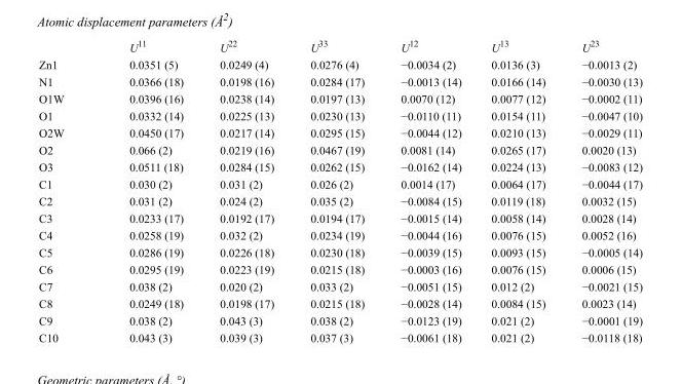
<table><thead><tr><td></td><td>U<sup>11</sup></td><td>U<sup>22</sup></td><td>U<sup>33</sup></td><td>U<sup>12</sup></td><td>U<sup>13</sup></td><td>U<sup>23</sup></td></tr></thead><tbody><tr><td>Zn1</td><td>0.0351 (5)</td><td>0.0249 (4)</td><td>0.0276 (4)</td><td>−0.0034 (2)</td><td>0.0136 (3)</td><td>−0.0013 (2)</td></tr><tr><td>N1</td><td>0.0366 (18)</td><td>0.0198 (16)</td><td>0.0284 (17)</td><td>−0.0013 (14)</td><td>0.0166 (14)</td><td>−0.0030 (13)</td></tr><tr><td>O1W</td><td>0.0396 (16)</td><td>0.0238 (14)</td><td>0.0197 (13)</td><td>0.0070 (12)</td><td>0.0077 (12)</td><td>−0.0002 (11)</td></tr><tr><td>O1</td><td>0.0332 (14)</td><td>0.0225 (13)</td><td>0.0230 (13)</td><td>−0.0110 (11)</td><td>0.0154 (11)</td><td>−0.0047 (10)</td></tr><tr><td>O2W</td><td>0.0450 (17)</td><td>0.0217 (14)</td><td>0.0295 (15)</td><td>−0.0044 (12)</td><td>0.0210 (13)</td><td>−0.0029 (11)</td></tr><tr><td>O2</td><td>0.066 (2)</td><td>0.0219 (16)</td><td>0.0467 (19)</td><td>0.0081 (14)</td><td>0.0265 (17)</td><td>0.0020 (13)</td></tr><tr><td>O3</td><td>0.0511 (18)</td><td>0.0284 (15)</td><td>0.0262 (15)</td><td>−0.0162 (14)</td><td>0.0224 (13)</td><td>−0.0083 (12)</td></tr><tr><td>C1</td><td>0.030 (2)</td><td>0.031 (2)</td><td>0.026 (2)</td><td>0.0014 (17)</td><td>0.0064 (17)</td><td>−0.0044 (17)</td></tr><tr><td>C2</td><td>0.031 (2)</td><td>0.024 (2)</td><td>0.035 (2)</td><td>−0.0084 (15)</td><td>0.0119 (18)</td><td>0.0032 (15)</td></tr><tr><td>C3</td><td>0.0233 (17)</td><td>0.0192 (17)</td><td>0.0194 (17)</td><td>−0.0015 (14)</td><td>0.0058 (14)</td><td>0.0028 (14)</td></tr><tr><td>C4</td><td>0.0258 (19)</td><td>0.032 (2)</td><td>0.0234 (19)</td><td>−0.0044 (16)</td><td>0.0076 (15)</td><td>0.0052 (16)</td></tr><tr><td>C5</td><td>0.0286 (19)</td><td>0.0226 (18)</td><td>0.0230 (18)</td><td>−0.0039 (15)</td><td>0.0093 (15)</td><td>−0.0005 (14)</td></tr><tr><td>C6</td><td>0.0295 (19)</td><td>0.0223 (19)</td><td>0.0215 (18)</td><td>−0.0003 (16)</td><td>0.0076 (15)</td><td>0.0006 (15)</td></tr><tr><td>C7</td><td>0.038 (2)</td><td>0.020 (2)</td><td>0.033 (2)</td><td>−0.0051 (15)</td><td>0.012 (2)</td><td>−0.0021 (15)</td></tr><tr><td>C8</td><td>0.0249 (18)</td><td>0.0198 (17)</td><td>0.0215 (18)</td><td>−0.0028 (14)</td><td>0.0084 (15)</td><td>0.0023 (14)</td></tr><tr><td>C9</td><td>0.038 (2)</td><td>0.043 (3)</td><td>0.038 (2)</td><td>−0.0123 (19)</td><td>0.021 (2)</td><td>−0.0001 (19)</td></tr><tr><td>C10</td><td>0.043 (3)</td><td>0.039 (3)</td><td>0.037 (3)</td><td>−0.0061 (18)</td><td>0.021 (2)</td><td>−0.0118 (18)</td></tr></tbody></table>